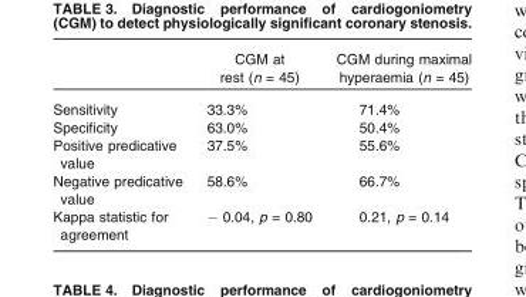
<table><thead><tr><td></td><td>CGM at rest (n = 45)</td><td>CGM during maximal hyperaemia (n = 45)</td></tr></thead><tbody><tr><td>Sensitivity</td><td>33.3%</td><td>71.4%</td></tr><tr><td>Specificity</td><td>63.0%</td><td>50.4%</td></tr><tr><td>Positive predicative value</td><td>37.5%</td><td>55.6%</td></tr><tr><td>Negative predicative value</td><td>58.6%</td><td>66.7%</td></tr><tr><td>Kappa statistic for agreement</td><td>− 0.04, p = 0.80</td><td>0.21, p = 0.14</td></tr></tbody></table>